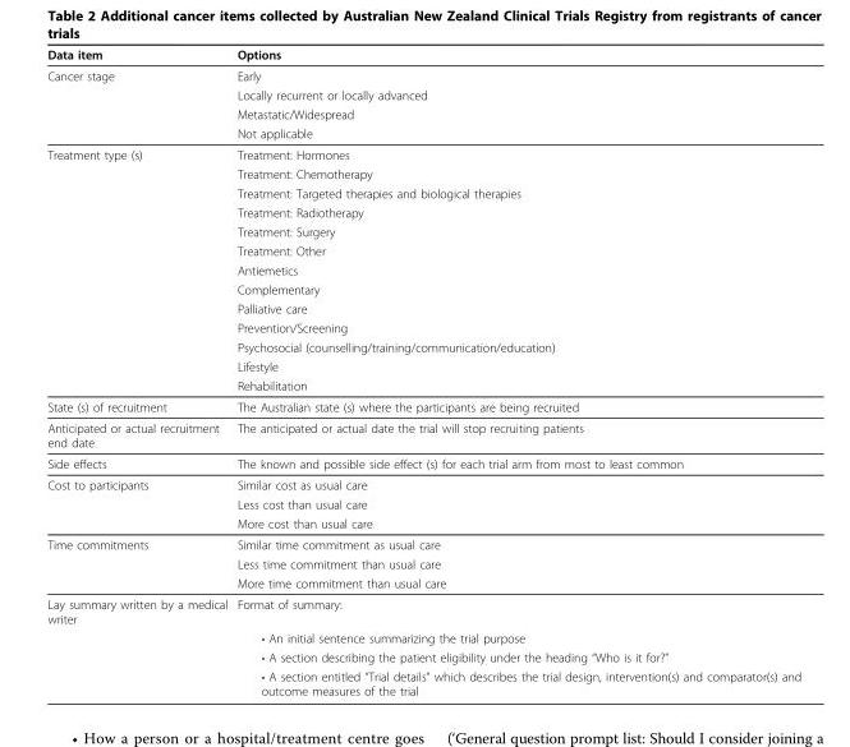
<table><thead><tr><td>Data item</td><td>Options</td></tr></thead><tbody><tr><td rowspan="4">Cancer stage</td><td>Early</td></tr><tr><td>Locally recurrent or locally advanced</td></tr><tr><td>Metastatic/Widespread</td></tr><tr><td>Not applicable</td></tr><tr><td rowspan="13">Treatment type (s)</td><td>Treatment: Hormones</td></tr><tr><td>Treatment: Chemotherapy</td></tr><tr><td>Treatment: Targeted therapies and biological therapies</td></tr><tr><td>Treatment: Radiotherapy</td></tr><tr><td>Treatment: Surgery</td></tr><tr><td>Treatment: Other</td></tr><tr><td>Antiemetics</td></tr><tr><td>Complementary</td></tr><tr><td>Palliative care</td></tr><tr><td>Prevention/Screening</td></tr><tr><td>Psychosocial (counselling/training/communication/education)</td></tr><tr><td>Lifestyle</td></tr><tr><td>Rehabilitation</td></tr><tr><td>State (s) of recruitment</td><td>The Australian state (s) where the participants are being recruited</td></tr><tr><td>Anticipated or actual recruitment end date</td><td>The anticipated or actual date the trial will stop recruiting patients</td></tr><tr><td>Side effects</td><td>The known and possible side effect (s) for each trial arm from most to least common</td></tr><tr><td rowspan="3">Cost to participants</td><td>Similar cost as usual care</td></tr><tr><td>Less cost than usual care</td></tr><tr><td>More cost than usual care</td></tr><tr><td rowspan="3">Time commitments</td><td>Similar time commitment as usual care</td></tr><tr><td>Less time commitment than usual care</td></tr><tr><td>More time commitment than usual care</td></tr><tr><td rowspan="4">Lay summary written by a medical writer</td><td>Format of summary:</td></tr><tr><td>• An initial sentence summarizing the trial purpose</td></tr><tr><td>• A section describing the patient eligibility under the heading “Who is it for?”</td></tr><tr><td>• A section entitled “Trial details” which describes the trial design, intervention(s) and comparator(s) and outcome measures of the trial</td></tr></tbody></table>